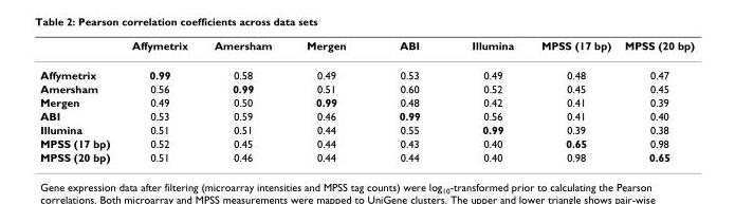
<table><thead><tr><td></td><td>Affymetrix</td><td>Amersham</td><td>Mergen</td><td>ABI</td><td>Illumina</td><td>MPSS (17 bp)</td><td>MPSS (20 bp)</td></tr></thead><tbody><tr><td>Affymetrix</td><td>0.99</td><td>0.58</td><td>0.49</td><td>0.53</td><td>0.49</td><td>0.48</td><td>0.47</td></tr><tr><td>Amersham</td><td>0.56</td><td>0.99</td><td>0.51</td><td>0.60</td><td>0.52</td><td>0.45</td><td>0.45</td></tr><tr><td>Mergen</td><td>0.49</td><td>0.50</td><td>0.99</td><td>0.48</td><td>0.42</td><td>0.41</td><td>0.39</td></tr><tr><td>ABI</td><td>0.53</td><td>0.59</td><td>0.46</td><td>0.99</td><td>0.56</td><td>0.41</td><td>0.40</td></tr><tr><td>Illumina</td><td>0.51</td><td>0.51</td><td>0.44</td><td>0.55</td><td>0.99</td><td>0.39</td><td>0.38</td></tr><tr><td>MPSS (17 bp)</td><td>0.52</td><td>0.45</td><td>0.44</td><td>0.43</td><td>0.40</td><td>0.65</td><td>0.98</td></tr><tr><td>MPSS (20 bp)</td><td>0.51</td><td>0.46</td><td>0.44</td><td>0.44</td><td>0.40</td><td>0.98</td><td>0.65</td></tr></tbody></table>